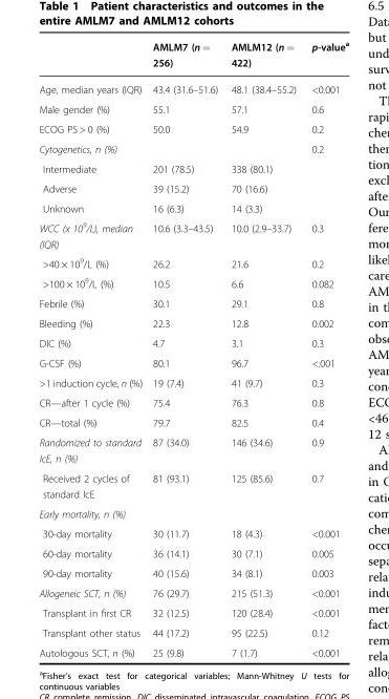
<table><thead><tr><td></td><td>AMLM7 (n = 256)</td><td>AMLM12 (n = 422)</td><td>p-value<sup>a</sup></td></tr></thead><tbody><tr><td>Age, median years (IQR)</td><td>43.4 (31.6–51.6)</td><td>48.1 (38.4–55.2)</td><td>&lt;0.001</td></tr><tr><td>Male gender (%)</td><td>55.1</td><td>57.1</td><td>0.6</td></tr><tr><td>ECOG PS &gt; 0 (%)</td><td>50.0</td><td>54.9</td><td>0.2</td></tr><tr><td>Cytogenetics, n (%)</td><td></td><td></td><td>0.2</td></tr><tr><td>Intermediate</td><td>201 (78.5)</td><td>338 (80.1)</td><td></td></tr><tr><td>Adverse</td><td>39 (15.2)</td><td>70 (16.6)</td><td></td></tr><tr><td>Unknown</td><td>16 (6.3)</td><td>14 (3.3)</td><td></td></tr><tr><td>WCC (x 10<sup>9</sup>/L), median (IQR)</td><td>10.6 (3.3–43.5)</td><td>10.0 (2.9–33.7)</td><td>0.3</td></tr><tr><td>&gt;40 × 10<sup>9</sup>/L (%)</td><td>26.2</td><td>21.6</td><td>0.2</td></tr><tr><td>&gt;100 × 10<sup>9</sup>/L (%)</td><td>10.5</td><td>6.6</td><td>0.082</td></tr><tr><td>Febrile (%)</td><td>30.1</td><td>29.1</td><td>0.8</td></tr><tr><td>Bleeding (%)</td><td>22.3</td><td>12.8</td><td>0.002</td></tr><tr><td>DIC (%)</td><td>4.7</td><td>3.1</td><td>0.3</td></tr><tr><td>G-CSF (%)</td><td>80.1</td><td>96.7</td><td>&lt;.001</td></tr><tr><td>&gt;1 induction cycle, n (%)</td><td>19 (7.4)</td><td>41 (9.7)</td><td>0.3</td></tr><tr><td>CR—after 1 cycle (%)</td><td>75.4</td><td>76.3</td><td>0.8</td></tr><tr><td>CR—total (%)</td><td>79.7</td><td>82.5</td><td>0.4</td></tr><tr><td>Randomized to standard IcE, n (%)</td><td>87 (34.0)</td><td>146 (34.6)</td><td>0.9</td></tr><tr><td>Received 2 cycles of standard IcE</td><td>81 (93.1)</td><td>125 (85.6)</td><td>0.7</td></tr><tr><td colspan="4">Early mortality, n (%)</td></tr><tr><td>30-day mortality</td><td>30 (11.7)</td><td>18 (4.3)</td><td>&lt;0.001</td></tr><tr><td>60-day mortality</td><td>36 (14.1)</td><td>30 (7.1)</td><td>0.005</td></tr><tr><td>90-day mortality</td><td>40 (15.6)</td><td>34 (8.1)</td><td>0.003</td></tr><tr><td>Allogeneic SCT, n (%)</td><td>76 (29.7)</td><td>215 (51.3)</td><td>&lt;0.001</td></tr><tr><td>Transplant in first CR</td><td>32 (12.5)</td><td>120 (28.4)</td><td>&lt;0.001</td></tr><tr><td>Transplant other status</td><td>44 (17.2)</td><td>95 (22.5)</td><td>0.12</td></tr><tr><td>Autologous SCT, n (%)</td><td>25 (9.8)</td><td>7 (1.7)</td><td>&lt;0.001</td></tr></tbody></table>